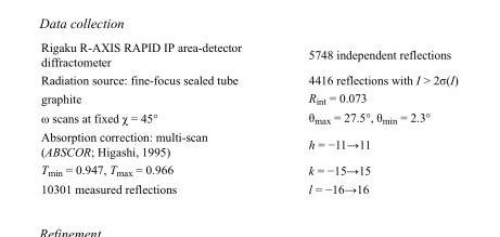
<table><tbody><tr><td>Rigaku R-AXIS RAPID IP area-detector diffractometer</td><td>5748 independent reflections</td></tr><tr><td>Radiation source: fine-focus sealed tube</td><td>4416 reflections with I &gt; 2σ(I)</td></tr><tr><td>graphite</td><td>R<sub>int</sub> = 0.073</td></tr><tr><td>ω scans at fixed χ = 45°</td><td>θ<sub>max</sub> = 27.5°, θ<sub>min</sub> = 2.3°</td></tr><tr><td>Absorption correction: multi-scan (ABSCOR; Higashi, 1995)</td><td>h = −11→11</td></tr><tr><td>T<sub>min</sub> = 0.947, T<sub>max</sub> = 0.966</td><td>k = −15→15</td></tr><tr><td>10301 measured reflections</td><td>l = −16→16</td></tr></tbody></table>